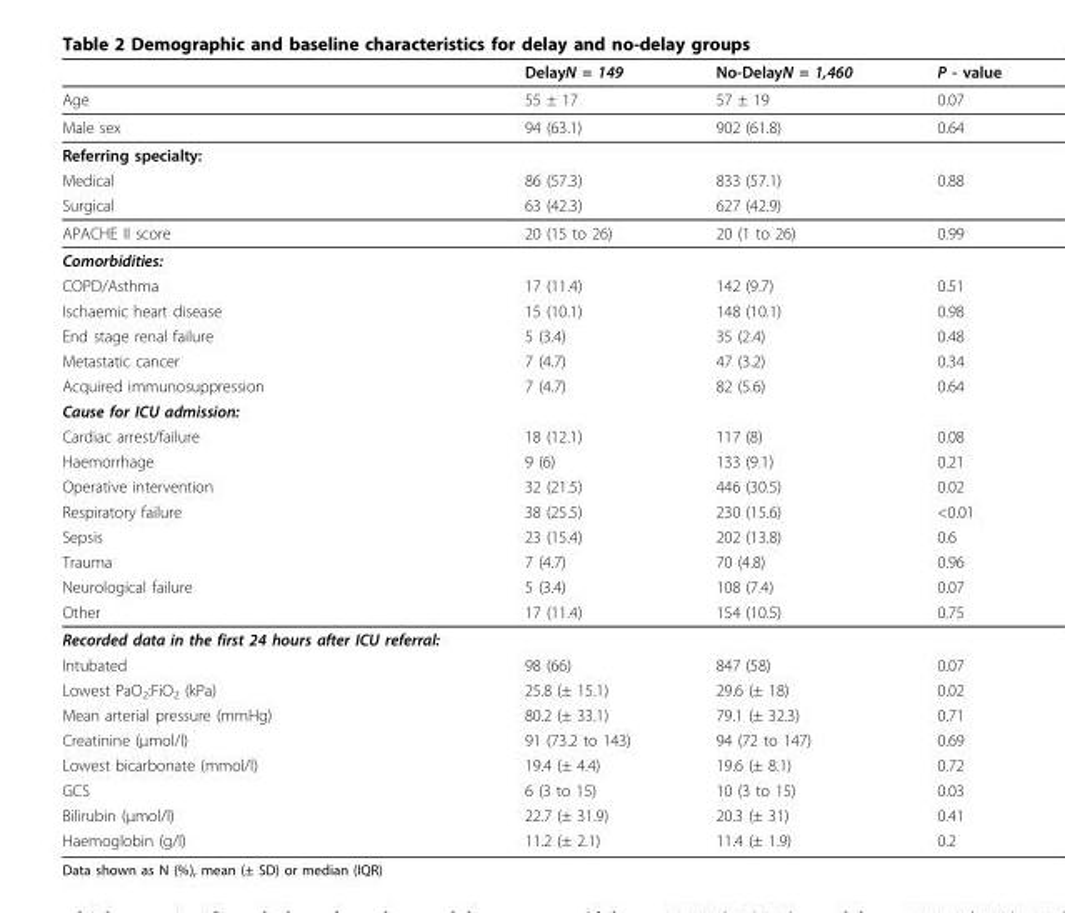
<table><thead><tr><td></td><td>DelayN = 149</td><td>No-DelayN = 1,460</td><td>P - value</td></tr></thead><tbody><tr><td>Age</td><td>55 ± 17</td><td>57 ± 19</td><td>0.07</td></tr><tr><td>Male sex</td><td>94 (63.1)</td><td>902 (61.8)</td><td>0.64</td></tr><tr><td colspan="4">Referring specialty:</td></tr><tr><td>Medical</td><td>86 (57.3)</td><td>833 (57.1)</td><td>0.88</td></tr><tr><td>Surgical</td><td>63 (42.3)</td><td>627 (42.9)</td><td></td></tr><tr><td>APACHE II score</td><td>20 (15 to 26)</td><td>20 (1 to 26)</td><td>0.99</td></tr><tr><td colspan="4">Comorbidities:</td></tr><tr><td>COPD/Asthma</td><td>17 (11.4)</td><td>142 (9.7)</td><td>0.51</td></tr><tr><td>Ischaemic heart disease</td><td>15 (10.1)</td><td>148 (10.1)</td><td>0.98</td></tr><tr><td>End stage renal failure</td><td>5 (3.4)</td><td>35 (2.4)</td><td>0.48</td></tr><tr><td>Metastatic cancer</td><td>7 (4.7)</td><td>47 (3.2)</td><td>0.34</td></tr><tr><td>Acquired immunosuppression</td><td>7 (4.7)</td><td>82 (5.6)</td><td>0.64</td></tr><tr><td colspan="4">Cause for ICU admission:</td></tr><tr><td>Cardiac arrest/failure</td><td>18 (12.1)</td><td>117 (8)</td><td>0.08</td></tr><tr><td>Haemorrhage</td><td>9 (6)</td><td>133 (9.1)</td><td>0.21</td></tr><tr><td>Operative intervention</td><td>32 (21.5)</td><td>446 (30.5)</td><td>0.02</td></tr><tr><td>Respiratory failure</td><td>38 (25.5)</td><td>230 (15.6)</td><td>&lt;0.01</td></tr><tr><td>Sepsis</td><td>23 (15.4)</td><td>202 (13.8)</td><td>0.6</td></tr><tr><td>Trauma</td><td>7 (4.7)</td><td>70 (4.8)</td><td>0.96</td></tr><tr><td>Neurological failure</td><td>5 (3.4)</td><td>108 (7.4)</td><td>0.07</td></tr><tr><td>Other</td><td>17 (11.4)</td><td>154 (10.5)</td><td>0.75</td></tr><tr><td colspan="4">Recorded data in the first 24 hours after ICU referral:</td></tr><tr><td>Intubated</td><td>98 (66)</td><td>847 (58)</td><td>0.07</td></tr><tr><td>Lowest PaO<sub>2</sub>:FiO<sub>2</sub> (kPa)</td><td>25.8 (± 15.1)</td><td>29.6 (± 18)</td><td>0.02</td></tr><tr><td>Mean arterial pressure (mmHg)</td><td>80.2 (± 33.1)</td><td>79.1 (± 32.3)</td><td>0.71</td></tr><tr><td>Creatinine (μmol/l)</td><td>91 (73.2 to 143)</td><td>94 (72 to 147)</td><td>0.69</td></tr><tr><td>Lowest bicarbonate (mmol/l)</td><td>19.4 (± 4.4)</td><td>19.6 (± 8.1)</td><td>0.72</td></tr><tr><td>GCS</td><td>6 (3 to 15)</td><td>10 (3 to 15)</td><td>0.03</td></tr><tr><td>Bilirubin (μmol/l)</td><td>22.7 (± 31.9)</td><td>20.3 (± 31)</td><td>0.41</td></tr><tr><td>Haemoglobin (g/l)</td><td>11.2 (± 2.1)</td><td>11.4 (± 1.9)</td><td>0.2</td></tr></tbody></table>